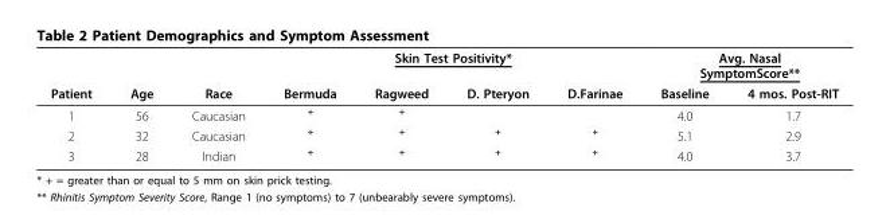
<table><thead><tr><td rowspan="2">Patient</td><td rowspan="2">Age</td><td rowspan="2">Race</td><td colspan="4">Skin Test Positivity*</td><td colspan="2">Avg. Nasal SymptomScore**</td></tr><tr><td>Bermuda</td><td>Ragweed</td><td>D. Pteryon</td><td>D.Farinae</td><td>Baseline</td><td>4 mos. Post-RIT</td></tr></thead><tbody><tr><td>1</td><td>56</td><td>Caucasian</td><td><sup>+</sup></td><td><sup>+</sup></td><td></td><td></td><td>4.0</td><td>1.7</td></tr><tr><td>2</td><td>32</td><td>Caucasian</td><td><sup>+</sup></td><td><sup>+</sup></td><td><sup>+</sup></td><td><sup>+</sup></td><td>5.1</td><td>2.9</td></tr><tr><td>3</td><td>28</td><td>Indian</td><td><sup>+</sup></td><td><sup>+</sup></td><td><sup>+</sup></td><td><sup>+</sup></td><td>4.0</td><td>3.7</td></tr></tbody></table>